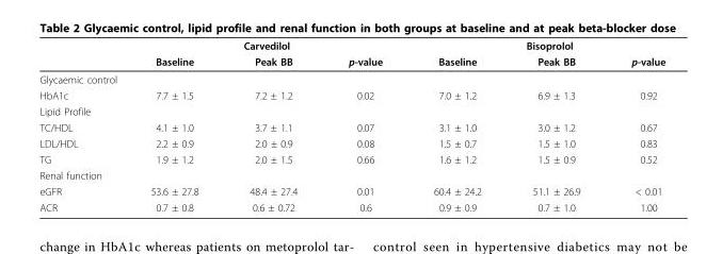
<table><thead><tr><td rowspan="2"></td><td colspan="3">Carvedilol</td><td colspan="3">Bisoprolol</td></tr><tr><td>Baseline</td><td>Peak BB</td><td>p-value</td><td>Baseline</td><td>Peak BB</td><td>p-value</td></tr></thead><tbody><tr><td colspan="7">Glycaemic control</td></tr><tr><td>HbA1c</td><td>7.7 ± 1.5</td><td>7.2 ± 1.2</td><td>0.02</td><td>7.0 ± 1.2</td><td>6.9 ± 1.3</td><td>0.92</td></tr><tr><td colspan="7">Lipid Profile</td></tr><tr><td>TC/HDL</td><td>4.1 ± 1.0</td><td>3.7 ± 1.1</td><td>0.07</td><td>3.1 ± 1.0</td><td>3.0 ± 1.2</td><td>0.67</td></tr><tr><td>LDL/HDL</td><td>2.2 ± 0.9</td><td>2.0 ± 0.9</td><td>0.08</td><td>1.5 ± 0.7</td><td>1.5 ± 1.0</td><td>0.83</td></tr><tr><td>TG</td><td>1.9 ± 1.2</td><td>2.0 ± 1.5</td><td>0.66</td><td>1.6 ± 1.2</td><td>1.5 ± 0.9</td><td>0.52</td></tr><tr><td colspan="7">Renal function</td></tr><tr><td>eGFR</td><td>53.6 ± 27.8</td><td>48.4 ± 27.4</td><td>0.01</td><td>60.4 ± 24.2</td><td>51.1 ± 26.9</td><td>&lt; 0.01</td></tr><tr><td>ACR</td><td>0.7 ± 0.8</td><td>0.6 ± 0.72</td><td>0.6</td><td>0.9 ± 0.9</td><td>0.7 ± 1.0</td><td>1.00</td></tr></tbody></table>